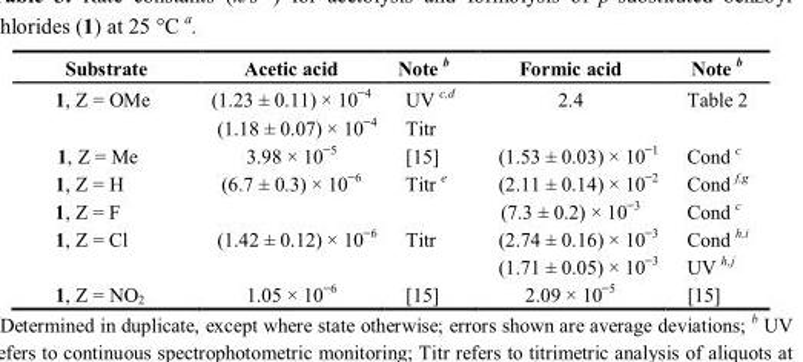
<table><thead><tr><td>Substrate</td><td>Acetic acid</td><td>Note <sup>b</sup></td><td>Formic acid</td><td>Note <sup>b</sup></td></tr></thead><tbody><tr><td rowspan="2">1, Z = OMe</td><td>(1.23 ± 0.11) × 10<sup>−4</sup></td><td>UV <sup>c,d</sup></td><td>2.4</td><td>Table 2</td></tr><tr><td>(1.18 ± 0.07) × 10<sup>−4</sup></td><td>Titr</td><td></td><td></td></tr><tr><td>1, Z = Me</td><td>3.98 × 10<sup>−5</sup></td><td>[15]</td><td>(1.53 ± 0.03) × 10<sup>−1</sup></td><td>Cond <sup>c</sup></td></tr><tr><td>1, Z = H</td><td>(6.7 ± 0.3) × 10<sup>−6</sup></td><td>Titr <sup>e</sup></td><td>(2.11 ± 0.14) × 10<sup>−2</sup></td><td>Cond <sup>f,g</sup></td></tr><tr><td>1, Z = F</td><td></td><td></td><td>(7.3 ± 0.2) × 10<sup>−3</sup></td><td>Cond <sup>c</sup></td></tr><tr><td rowspan="2">1, Z = Cl</td><td>(1.42 ± 0.12) × 10<sup>−6</sup></td><td>Titr</td><td>(2.74 ± 0.16) × 10<sup>−3</sup></td><td>Cond <sup>h,i</sup></td></tr><tr><td></td><td></td><td>(1.71 ± 0.05) × 10<sup>−3</sup></td><td>UV <sup>h,j</sup></td></tr><tr><td>1, Z = NO<sub>2</sub></td><td>1.05 × 10<sup>−6</sup></td><td>[15]</td><td>2.09 × 10<sup>−5</sup></td><td>[15]</td></tr></tbody></table>